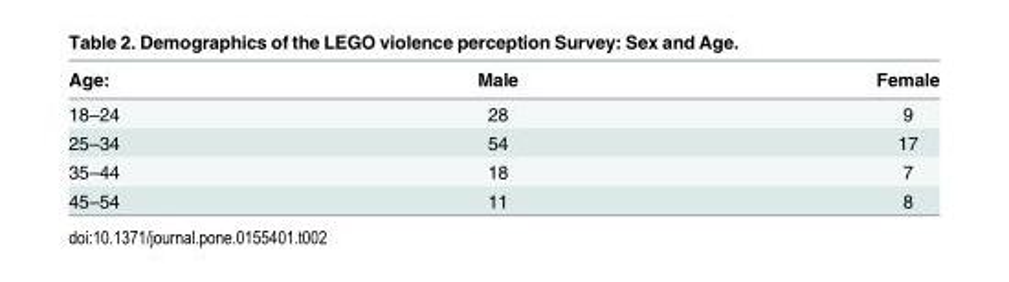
<table><thead><tr><td>Age:</td><td>Male</td><td>Female</td></tr></thead><tbody><tr><td>18–24</td><td>28</td><td>9</td></tr><tr><td>25–34</td><td>54</td><td>17</td></tr><tr><td>35–44</td><td>18</td><td>7</td></tr><tr><td>45–54</td><td>11</td><td>8</td></tr></tbody></table>